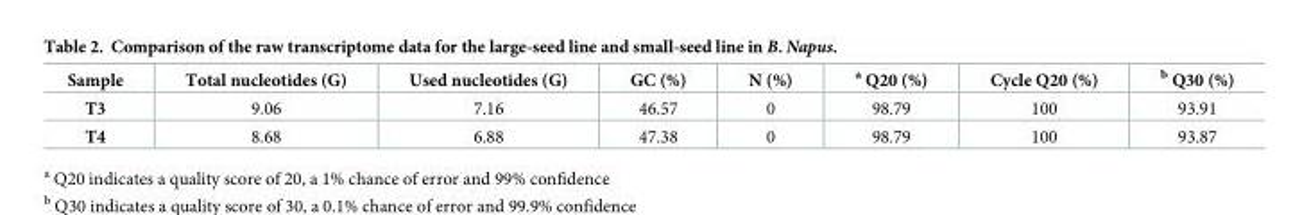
<table><thead><tr><td>Sample</td><td>Total nucleotides (G)</td><td>Used nucleotides (G)</td><td>GC (%)</td><td>N (%)</td><td><sup>a</sup> Q20 (%)</td><td>Cycle Q20 (%)</td><td><sup>b</sup> Q30 (%)</td></tr></thead><tbody><tr><td>T3</td><td>9.06</td><td>7.16</td><td>46.57</td><td>0</td><td>98.79</td><td>100</td><td>93.91</td></tr><tr><td>T4</td><td>8.68</td><td>6.88</td><td>47.38</td><td>0</td><td>98.79</td><td>100</td><td>93.87</td></tr></tbody></table>